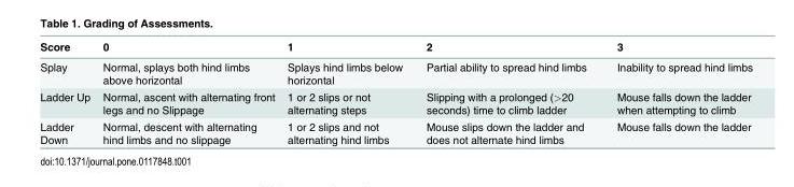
<table><thead><tr><td>Score</td><td>0</td><td>1</td><td>2</td><td>3</td></tr></thead><tbody><tr><td>Splay</td><td>Normal, splays both hind limbs above horizontal</td><td>Splays hind limbs below horizontal</td><td>Partial ability to spread hind limbs</td><td>Inability to spread hind limbs</td></tr><tr><td>Ladder Up</td><td>Normal, ascent with alternating front legs and no Slippage</td><td>1 or 2 slips or not alternating steps</td><td>Slipping with a prolonged (&gt;20 seconds) time to climb ladder</td><td>Mouse falls down the ladder when attempting to climb</td></tr><tr><td>Ladder Down</td><td>Normal, descent with alternating hind limbs and no slippage</td><td>1 or 2 slips and not alternating hind limbs</td><td>Mouse slips down the ladder and does not alternate hind limbs</td><td>Mouse falls down the ladder</td></tr></tbody></table>